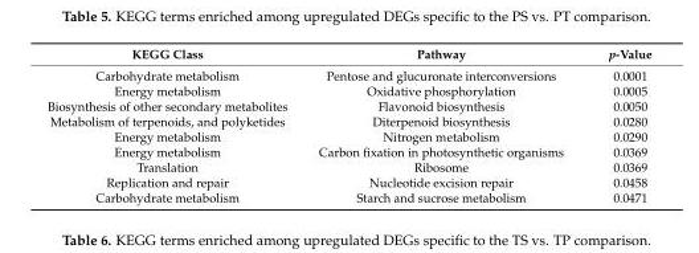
<table><thead><tr><td>KEGG Class</td><td>Pathway</td><td>p-Value</td></tr></thead><tbody><tr><td>Carbohydrate metabolism</td><td>Pentose and glucuronate interconversions</td><td>0.0001</td></tr><tr><td>Energy metabolism</td><td>Oxidative phosphorylation</td><td>0.0005</td></tr><tr><td>Biosynthesis of other secondary metabolites</td><td>Flavonoid biosynthesis</td><td>0.0050</td></tr><tr><td>Metabolism of terpenoids, and polyketides</td><td>Diterpenoid biosynthesis</td><td>0.0280</td></tr><tr><td>Energy metabolism</td><td>Nitrogen metabolism</td><td>0.0290</td></tr><tr><td>Energy metabolism</td><td>Carbon fixation in photosynthetic organisms</td><td>0.0369</td></tr><tr><td>Translation</td><td>Ribosome</td><td>0.0369</td></tr><tr><td>Replication and repair</td><td>Nucleotide excision repair</td><td>0.0458</td></tr><tr><td>Carbohydrate metabolism</td><td>Starch and sucrose metabolism</td><td>0.0471</td></tr></tbody></table>